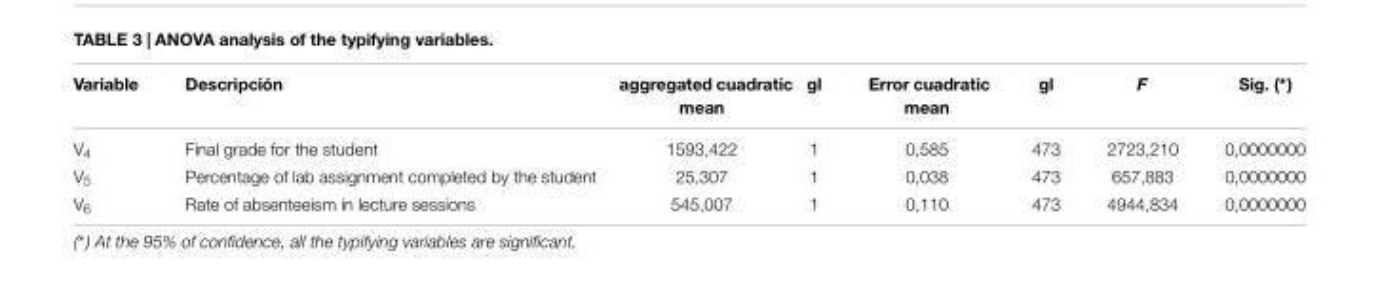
<table><thead><tr><td>Variable</td><td>Descripción</td><td>aggregated cuadratic mean</td><td>gl</td><td>Error cuadratic mean</td><td>gl</td><td>F</td><td>Sig. (∗)</td></tr></thead><tbody><tr><td>V<sub>4</sub></td><td>Final grade for the student</td><td>1593,422</td><td>1</td><td>0,585</td><td>473</td><td>2723,210</td><td>0,0000000</td></tr><tr><td>V<sub>5</sub></td><td>Percentage of lab assignment completed by the student</td><td>25,307</td><td>1</td><td>0,038</td><td>473</td><td>657,883</td><td>0,0000000</td></tr><tr><td>V<sub>6</sub></td><td>Rate of absenteeism in lecture sessions</td><td>545,007</td><td>1</td><td>0,110</td><td>473</td><td>4944,834</td><td>0,0000000</td></tr></tbody></table>